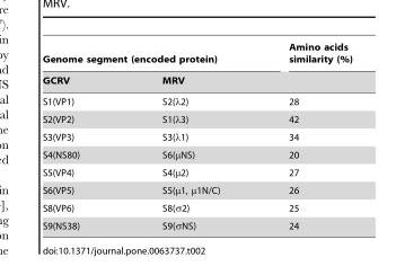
<table><thead><tr><td colspan="2">Genome segment (encoded protein)</td><td rowspan="2">Amino acids similarity (%)</td></tr><tr><td>GCRV</td><td>MRV</td></tr></thead><tbody><tr><td>S1(VP1)</td><td>S2(λ2)</td><td>28</td></tr><tr><td>S2(VP2)</td><td>S1(λ3)</td><td>42</td></tr><tr><td>S3(VP3)</td><td>S3(λ1)</td><td>34</td></tr><tr><td>S4(NS80)</td><td>S6(μNS)</td><td>20</td></tr><tr><td>S5(VP4)</td><td>S4(μ2)</td><td>27</td></tr><tr><td>S6(VP5)</td><td>S5(μ1, μ1N/C)</td><td>26</td></tr><tr><td>S8(VP6)</td><td>S8(σ2)</td><td>25</td></tr><tr><td>S9(NS38)</td><td>S9(σNS)</td><td>24</td></tr></tbody></table>